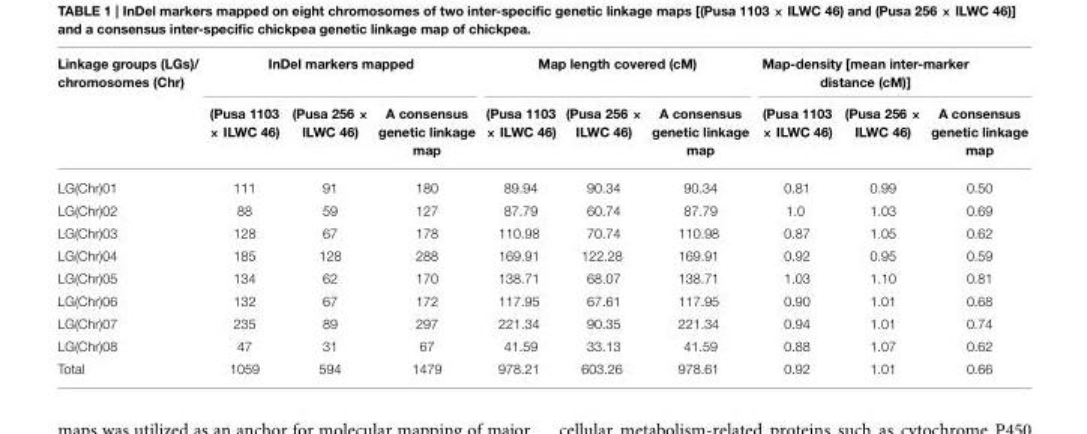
<table><thead><tr><td rowspan="2">Linkage groups (LGs)/ chromosomes (Chr)</td><td colspan="3">InDel markers mapped</td><td colspan="3">Map length covered (cM)</td><td colspan="3">Map-density [mean inter-marker distance (cM)]</td></tr><tr><td>(Pusa 1103 × ILWC 46)</td><td>(Pusa 256 × ILWC 46)</td><td>A consensus genetic linkage map</td><td>(Pusa 1103 × ILWC 46)</td><td>(Pusa 256 × ILWC 46)</td><td>A consensus genetic linkage map</td><td>(Pusa 1103 × ILWC 46)</td><td>(Pusa 256 × ILWC 46)</td><td>A consensus genetic linkage map</td></tr></thead><tbody><tr><td>LG(Chr)01</td><td>111</td><td>91</td><td>180</td><td>89.94</td><td>90.34</td><td>90.34</td><td>0.81</td><td>0.99</td><td>0.50</td></tr><tr><td>LG(Chr)02</td><td>88</td><td>59</td><td>127</td><td>87.79</td><td>60.74</td><td>87.79</td><td>1.0</td><td>1.03</td><td>0.69</td></tr><tr><td>LG(Chr)03</td><td>128</td><td>67</td><td>178</td><td>110.98</td><td>70.74</td><td>110.98</td><td>0.87</td><td>1.05</td><td>0.62</td></tr><tr><td>LG(Chr)04</td><td>185</td><td>128</td><td>288</td><td>169.91</td><td>122.28</td><td>169.91</td><td>0.92</td><td>0.95</td><td>0.59</td></tr><tr><td>LG(Chr)05</td><td>134</td><td>62</td><td>170</td><td>138.71</td><td>68.07</td><td>138.71</td><td>1.03</td><td>1.10</td><td>0.81</td></tr><tr><td>LG(Chr)06</td><td>132</td><td>67</td><td>172</td><td>117.95</td><td>67.61</td><td>117.95</td><td>0.90</td><td>1.01</td><td>0.68</td></tr><tr><td>LG(Chr)07</td><td>235</td><td>89</td><td>297</td><td>221.34</td><td>90.35</td><td>221.34</td><td>0.94</td><td>1.01</td><td>0.74</td></tr><tr><td>LG(Chr)08</td><td>47</td><td>31</td><td>67</td><td>41.59</td><td>33.13</td><td>41.59</td><td>0.88</td><td>1.07</td><td>0.62</td></tr><tr><td>Total</td><td>1059</td><td>594</td><td>1479</td><td>978.21</td><td>603.26</td><td>978.61</td><td>0.92</td><td>1.01</td><td>0.66</td></tr></tbody></table>